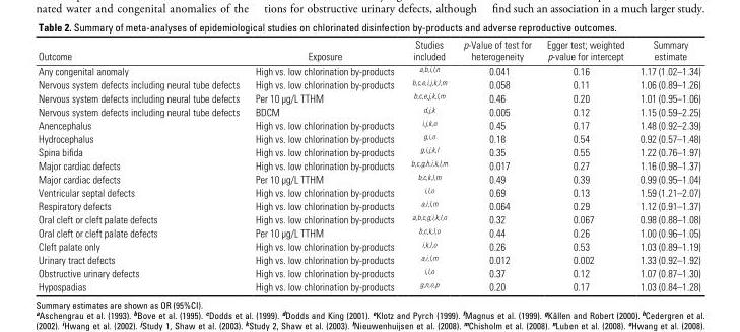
<table><thead><tr><td>Outcome</td><td>Exposure</td><td>Studies included</td><td>p-Value of test for heterogeneity</td><td>Egger test; weighted p-value for intercept</td><td>Summary estimate</td></tr></thead><tbody><tr><td>Any congenital anomaly</td><td>High vs. low chlorination by-products</td><td>a,b,i,l,n</td><td>0.041</td><td>0.16</td><td>1.17 (1.02–1.34)</td></tr><tr><td>Nervous system defects including neural tube defects</td><td>High vs. low chlorination by-products</td><td>b,c,e,i,j,k,l,m</td><td>0.058</td><td>0.11</td><td>1.06 (0.89–1.26)</td></tr><tr><td>Nervous system defects including neural tube defects</td><td>Per 10 µg/L TTHM</td><td>b,c,e,j,k,l,m</td><td>0.46</td><td>0.20</td><td>1.01 (0.95–1.06)</td></tr><tr><td>Nervous system defects including neural tube defects</td><td>BDCM</td><td>d,j,k</td><td>0.005</td><td>0.12</td><td>1.15 (0.59–2.25)</td></tr><tr><td>Anencephalus</td><td>High vs. low chlorination by-products</td><td>i,j,k,o</td><td>0.45</td><td>0.17</td><td>1.48 (0.92–2.39)</td></tr><tr><td>Hydrocephalus</td><td>High vs. low chlorination by-products</td><td>g,i,o</td><td>0.18</td><td>0.54</td><td>0.92 (0.57–1.48)</td></tr><tr><td>Spina bifida</td><td>High vs. low chlorination by-products</td><td>g,i,j,k,l</td><td>0.35</td><td>0.55</td><td>1.22 (0.76–1.97)</td></tr><tr><td>Major cardiac defects</td><td>High vs. low chlorination by-products</td><td>b,c,g,h,i,k,l,m</td><td>0.017</td><td>0.27</td><td>1.16 (0.98–1.37)</td></tr><tr><td>Major cardiac defects</td><td>Per 10 µg/L TTHM</td><td>b,c,k,l,m</td><td>0.49</td><td>0.39</td><td>0.99 (0.95–1.04)</td></tr><tr><td>Ventricular septal defects</td><td>High vs. low chlorination by-products</td><td>i,l,o</td><td>0.69</td><td>0.13</td><td>1.59 (1.21–2.07)</td></tr><tr><td>Respiratory defects</td><td>High vs. low chlorination by-products</td><td>a,i,l,m</td><td>0.064</td><td>0.29</td><td>1.12 (0.91–1.37)</td></tr><tr><td>Oral cleft or cleft palate defects</td><td>High vs. low chlorination by-products</td><td>a,b,c,g,i,k,l,o</td><td>0.32</td><td>0.067</td><td>0.98 (0.88–1.08)</td></tr><tr><td>Oral cleft or cleft palate defects</td><td>Per 10 µg/L TTHM</td><td>b,c,k,l,o</td><td>0.44</td><td>0.26</td><td>1.00 (0.96–1.05)</td></tr><tr><td>Cleft palate only</td><td>High vs. low chlorination by-products</td><td>i,k,l,o</td><td>0.26</td><td>0.53</td><td>1.03 (0.89–1.19)</td></tr><tr><td>Urinary tract defects</td><td>High vs. low chlorination by-products</td><td>a,i,l,m</td><td>0.012</td><td>0.002</td><td>1.33 (0.92–1.92)</td></tr><tr><td>Obstructive urinary defects</td><td>High vs. low chlorination by-products</td><td>i,l,o</td><td>0.37</td><td>0.12</td><td>1.07 (0.87–1.30)</td></tr><tr><td>Hypospadias</td><td>High vs. low chlorination by-products</td><td>g,n,o,p</td><td>0.20</td><td>0.17</td><td>1.03 (0.84–1.28)</td></tr></tbody></table>